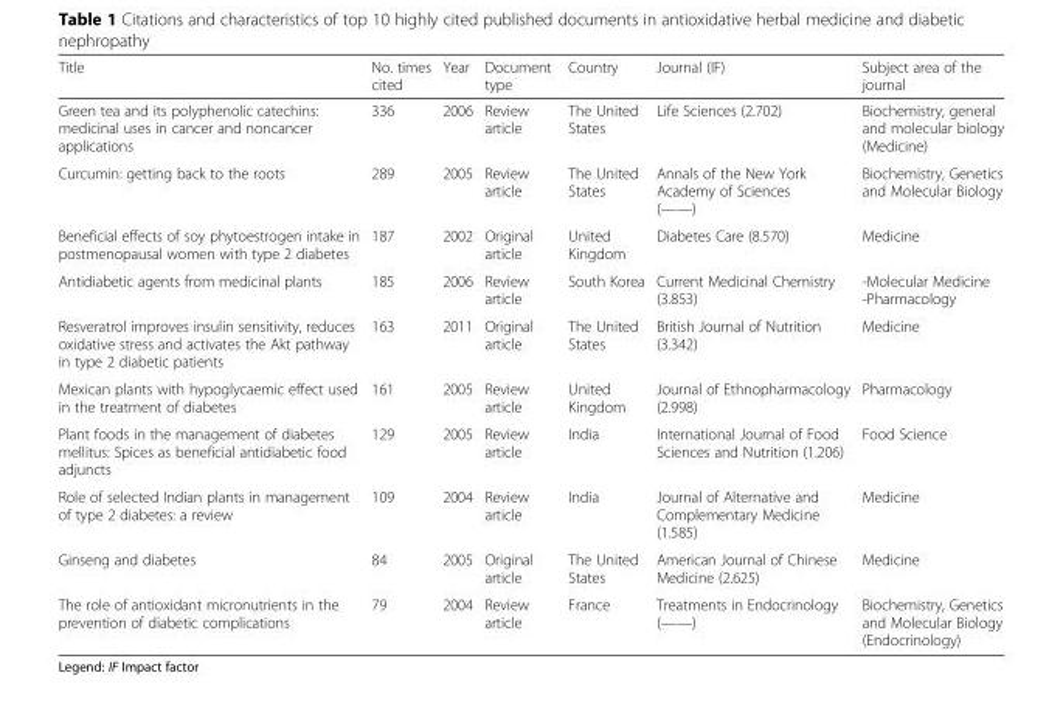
<table><thead><tr><td>Title</td><td>No. times cited</td><td>Year</td><td>Document type</td><td>Country</td><td>Journal (IF)</td><td>Subject area of the journal</td></tr></thead><tbody><tr><td>Green tea and its polyphenolic catechins: medicinal uses in cancer and noncancer applications</td><td>336</td><td>2006</td><td>Review article</td><td>The United States</td><td>Life Sciences (2.702)</td><td>Biochemistry, general and molecular biology (Medicine)</td></tr><tr><td>Curcumin: getting back to the roots</td><td>289</td><td>2005</td><td>Review article</td><td>The United States</td><td>Annals of the New York Academy of Sciences (——)</td><td>Biochemistry, Genetics and Molecular Biology</td></tr><tr><td>Beneficial effects of soy phytoestrogen intake in postmenopausal women with type 2 diabetes</td><td>187</td><td>2002</td><td>Original article</td><td>United Kingdom</td><td>Diabetes Care (8.570)</td><td>Medicine</td></tr><tr><td>Antidiabetic agents from medicinal plants</td><td>185</td><td>2006</td><td>Review article</td><td>South Korea</td><td>Current Medicinal Chemistry (3.853)</td><td>-Molecular Medicine -Pharmacology</td></tr><tr><td>Resveratrol improves insulin sensitivity, reduces oxidative stress and activates the Akt pathway in type 2 diabetic patients</td><td>163</td><td>2011</td><td>Original article</td><td>The United States</td><td>British Journal of Nutrition (3.342)</td><td>Medicine</td></tr><tr><td>Mexican plants with hypoglycaemic effect used in the treatment of diabetes</td><td>161</td><td>2005</td><td>Review article</td><td>United Kingdom</td><td>Journal of Ethnopharmacology (2.998)</td><td>Pharmacology</td></tr><tr><td>Plant foods in the management of diabetes mellitus: Spices as beneficial antidiabetic food adjuncts</td><td>129</td><td>2005</td><td>Review article</td><td>India</td><td>International Journal of Food Sciences and Nutrition (1.206)</td><td>Food Science</td></tr><tr><td>Role of selected Indian plants in management of type 2 diabetes: a review</td><td>109</td><td>2004</td><td>Review article</td><td>India</td><td>Journal of Alternative and Complementary Medicine (1.585)</td><td>Medicine</td></tr><tr><td>Ginseng and diabetes</td><td>84</td><td>2005</td><td>Original article</td><td>The United States</td><td>American Journal of Chinese Medicine (2.625)</td><td>Medicine</td></tr><tr><td>The role of antioxidant micronutrients in the prevention of diabetic complications</td><td>79</td><td>2004</td><td>Review article</td><td>France</td><td>Treatments in Endocrinology (——)</td><td>Biochemistry, Genetics and Molecular Biology (Endocrinology)</td></tr></tbody></table>